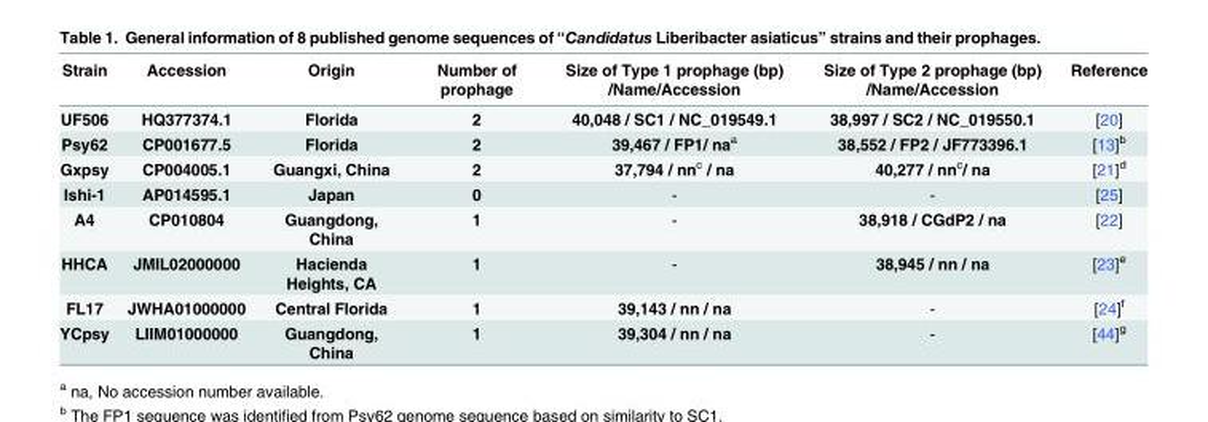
<table><thead><tr><td>Strain</td><td>Accession</td><td>Origin</td><td>Number of prophage</td><td>Size of Type 1 prophage (bp) /Name/Accession</td><td>Size of Type 2 prophage (bp) /Name/Accession</td><td>Reference</td></tr></thead><tbody><tr><td>UF506</td><td>HQ377374.1</td><td>Florida</td><td>2</td><td>40,048 / SC1 / NC_019549.1</td><td>38,997 / SC2 / NC_019550.1</td><td>[20]</td></tr><tr><td>Psy62</td><td>CP001677.5</td><td>Florida</td><td>2</td><td>39,467 / FP1/ na<sup>a</sup></td><td>38,552 / FP2 / JF773396.1</td><td>[13]<sup>b</sup></td></tr><tr><td>Gxpsy</td><td>CP004005.1</td><td>Guangxi, China</td><td>2</td><td>37,794 / nn<sup>c</sup> / na</td><td>40,277 / nn<sup>c</sup>/ na</td><td>[21]<sup>d</sup></td></tr><tr><td>Ishi-1</td><td>AP014595.1</td><td>Japan</td><td>0</td><td>-</td><td>-</td><td>[25]</td></tr><tr><td>A4</td><td>CP010804</td><td>Guangdong, China</td><td>1</td><td>-</td><td>38,918 / CGdP2 / na</td><td>[22]</td></tr><tr><td>HHCA</td><td>JMIL02000000</td><td>Hacienda Heights, CA</td><td>1</td><td>-</td><td>38,945 / nn / na</td><td>[23]<sup>e</sup></td></tr><tr><td>FL17</td><td>JWHA01000000</td><td>Central Florida</td><td>1</td><td>39,143 / nn / na</td><td>-</td><td>[24]<sup>f</sup></td></tr><tr><td>YCpsy</td><td>LIIM01000000</td><td>Guangdong, China</td><td>1</td><td>39,304 / nn / na</td><td>-</td><td>[44]<sup>g</sup></td></tr></tbody></table>